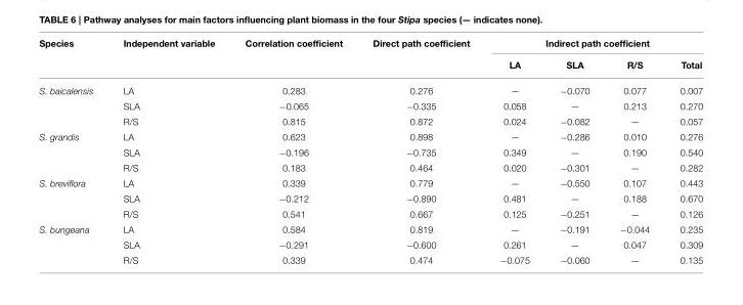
<table><thead><tr><td rowspan="2">Species</td><td rowspan="2">Independent variable</td><td rowspan="2">Correlation coefficient</td><td rowspan="2">Direct path coefficient</td><td colspan="4">Indirect path coefficient</td></tr><tr><td>LA</td><td>SLA</td><td>R/S</td><td>Total</td></tr></thead><tbody><tr><td rowspan="3">S. baicalensis</td><td>LA</td><td>0.283</td><td>0.276</td><td>—</td><td>−0.070</td><td>0.077</td><td>0.007</td></tr><tr><td>SLA</td><td>−0.065</td><td>−0.335</td><td>0.058</td><td>—</td><td>0.213</td><td>0.270</td></tr><tr><td>R/S</td><td>0.815</td><td>0.872</td><td>0.024</td><td>−0.082</td><td>—</td><td>0.057</td></tr><tr><td rowspan="3">S. grandis</td><td>LA</td><td>0.623</td><td>0.898</td><td>—</td><td>−0.286</td><td>0.010</td><td>0.276</td></tr><tr><td>SLA</td><td>−0.196</td><td>−0.735</td><td>0.349</td><td>—</td><td>0.190</td><td>0.540</td></tr><tr><td>R/S</td><td>0.183</td><td>0.464</td><td>0.020</td><td>−0.301</td><td>—</td><td>0.282</td></tr><tr><td rowspan="3">S. breviflora</td><td>LA</td><td>0.339</td><td>0.779</td><td>—</td><td>−0.550</td><td>0.107</td><td>0.443</td></tr><tr><td>SLA</td><td>−0.212</td><td>−0.890</td><td>0.481</td><td>—</td><td>0.188</td><td>0.670</td></tr><tr><td>R/S</td><td>0.541</td><td>0.667</td><td>0.125</td><td>−0.251</td><td>—</td><td>0.126</td></tr><tr><td rowspan="3">S. bungeana</td><td>LA</td><td>0.584</td><td>0.819</td><td>—</td><td>−0.191</td><td>−0.044</td><td>0.235</td></tr><tr><td>SLA</td><td>−0.291</td><td>−0.600</td><td>0.261</td><td>—</td><td>0.047</td><td>0.309</td></tr><tr><td>R/S</td><td>0.339</td><td>0.474</td><td>−0.075</td><td>−0.060</td><td>—</td><td>0.135</td></tr></tbody></table>